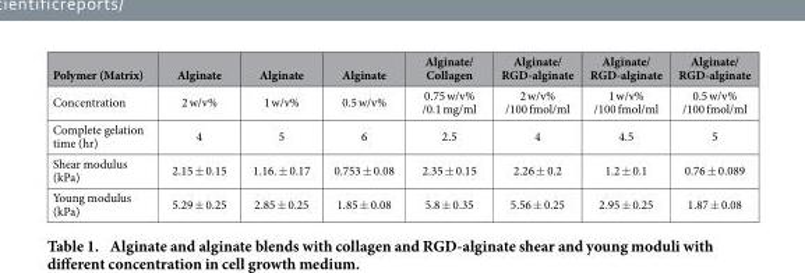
<table><thead><tr><td>Polymer (Matrix)</td><td>Alginate</td><td>Alginate</td><td>Alginate</td><td>Alginate/ Collagen</td><td>Alginate/ RGD-alginate</td><td>Alginate/ RGD-alginate</td><td>Alginate/ RGD-alginate</td></tr></thead><tbody><tr><td>Concentration</td><td>2 w/v%</td><td>1 w/v%</td><td>0.5 w/v%</td><td>0.75 w/v% /0.1 mg/ml</td><td>2 w/v% /100 fmol/ml</td><td>1 w/v% /100 fmol/ml</td><td>0.5 w/v% /100 fmol/ml</td></tr><tr><td>Complete gelation time (hr)</td><td>4</td><td>5</td><td>6</td><td>2.5</td><td>4</td><td>4.5</td><td>5</td></tr><tr><td>Shear modulus (kPa)</td><td>2.15 ± 0.15</td><td>1.16. ± 0.17</td><td>0.753 ± 0.08</td><td>2.35 ± 0.15</td><td>2.26 ± 0.2</td><td>1.2 ± 0.1</td><td>0.76 ± 0.089</td></tr><tr><td>Young modulus (kPa)</td><td>5.29 ± 0.25</td><td>2.85 ± 0.25</td><td>1.85 ± 0.08</td><td>5.8 ± 0.35</td><td>5.56 ± 0.25</td><td>2.95 ± 0.25</td><td>1.87 ± 0.08</td></tr></tbody></table>